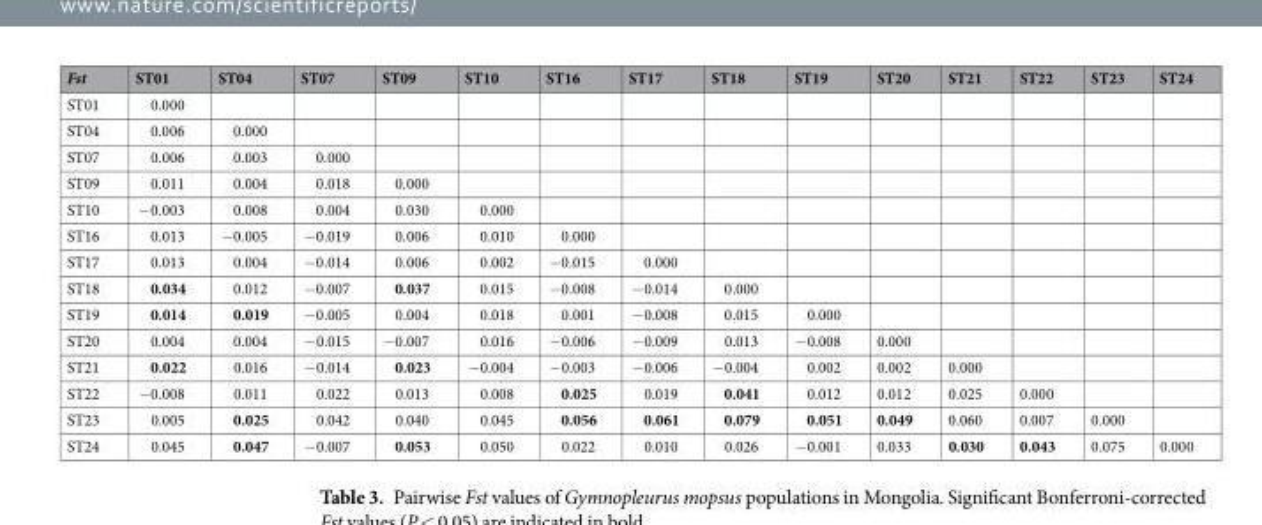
<table><thead><tr><td>Fst</td><td>ST01</td><td>ST04</td><td>ST07</td><td>ST09</td><td>ST10</td><td>ST16</td><td>ST17</td><td>ST18</td><td>ST19</td><td>ST20</td><td>ST21</td><td>ST22</td><td>ST23</td><td>ST24</td></tr></thead><tbody><tr><td>ST01</td><td>0.000</td><td></td><td></td><td></td><td></td><td></td><td></td><td></td><td></td><td></td><td></td><td></td><td></td><td></td></tr><tr><td>ST04</td><td>0.006</td><td>0.000</td><td></td><td></td><td></td><td></td><td></td><td></td><td></td><td></td><td></td><td></td><td></td><td></td></tr><tr><td>ST07</td><td>0.006</td><td>0.003</td><td>0.000</td><td></td><td></td><td></td><td></td><td></td><td></td><td></td><td></td><td></td><td></td><td></td></tr><tr><td>ST09</td><td>0.011</td><td>0.004</td><td>0.018</td><td>0.000</td><td></td><td></td><td></td><td></td><td></td><td></td><td></td><td></td><td></td><td></td></tr><tr><td>ST10</td><td>−0.003</td><td>0.008</td><td>0.004</td><td>0.030</td><td>0.000</td><td></td><td></td><td></td><td></td><td></td><td></td><td></td><td></td><td></td></tr><tr><td>ST16</td><td>0.013</td><td>−0.005</td><td>−0.019</td><td>0.006</td><td>0.010</td><td>0.000</td><td></td><td></td><td></td><td></td><td></td><td></td><td></td><td></td></tr><tr><td>ST17</td><td>0.013</td><td>0.004</td><td>−0.014</td><td>0.006</td><td>0.002</td><td>−0.015</td><td>0.000</td><td></td><td></td><td></td><td></td><td></td><td></td><td></td></tr><tr><td>ST18</td><td>0.034</td><td>0.012</td><td>−0.007</td><td>0.037</td><td>0.015</td><td>−0.008</td><td>−0.014</td><td>0.000</td><td></td><td></td><td></td><td></td><td></td><td></td></tr><tr><td>ST19</td><td>0.014</td><td>0.019</td><td>−0.005</td><td>0.004</td><td>0.018</td><td>0.001</td><td>−0.008</td><td>0.015</td><td>0.000</td><td></td><td></td><td></td><td></td><td></td></tr><tr><td>ST20</td><td>0.004</td><td>0.004</td><td>−0.015</td><td>−0.007</td><td>0.016</td><td>−0.006</td><td>−0.009</td><td>0.013</td><td>−0.008</td><td>0.000</td><td></td><td></td><td></td><td></td></tr><tr><td>ST21</td><td>0.022</td><td>0.016</td><td>−0.014</td><td>0.023</td><td>−0.004</td><td>−0.003</td><td>−0.006</td><td>−0.004</td><td>0.002</td><td>0.002</td><td>0.000</td><td></td><td></td><td></td></tr><tr><td>ST22</td><td>−0.008</td><td>0.011</td><td>0.022</td><td>0.013</td><td>0.008</td><td>0.025</td><td>0.019</td><td>0.041</td><td>0.012</td><td>0.012</td><td>0.025</td><td>0.000</td><td></td><td></td></tr><tr><td>ST23</td><td>0.005</td><td>0.025</td><td>0.042</td><td>0.040</td><td>0.045</td><td>0.056</td><td>0.061</td><td>0.079</td><td>0.051</td><td>0.049</td><td>0.060</td><td>0.007</td><td>0.000</td><td></td></tr><tr><td>ST24</td><td>0.045</td><td>0.047</td><td>−0.007</td><td>0.053</td><td>0.050</td><td>0.022</td><td>0.010</td><td>0.026</td><td>−0.001</td><td>0.033</td><td>0.030</td><td>0.043</td><td>0.075</td><td>0.000</td></tr></tbody></table>